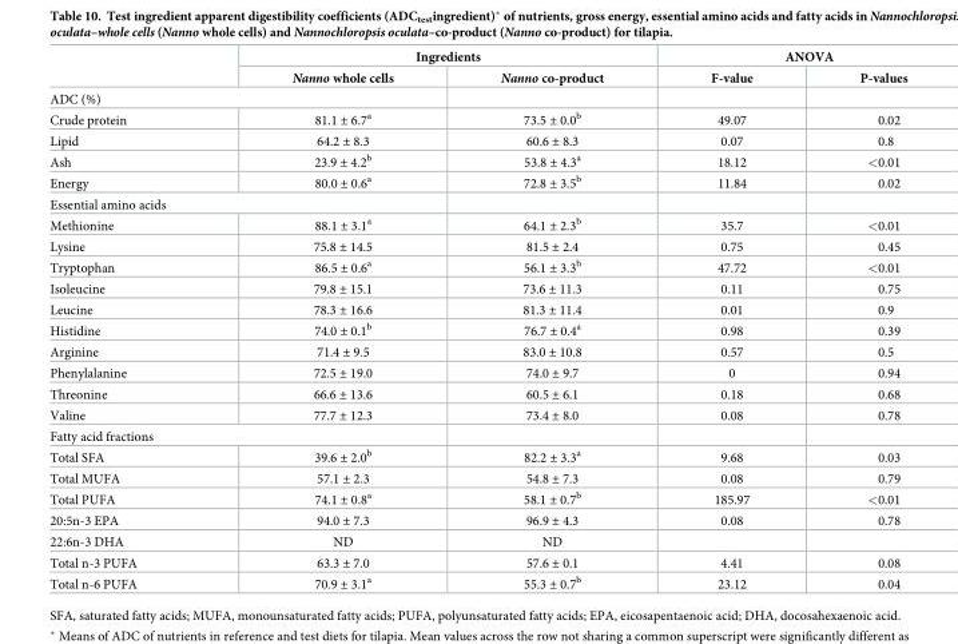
<table><thead><tr><td rowspan="2"></td><td colspan="2">Ingredients</td><td colspan="2">ANOVA</td></tr><tr><td>Nanno whole cells</td><td>Nanno co-product</td><td>F-value</td><td>P-values</td></tr></thead><tbody><tr><td colspan="5">ADC (%)</td></tr><tr><td>Crude protein</td><td>81.1 ± 6.7<sup>a</sup></td><td>73.5 ± 0.0<sup>b</sup></td><td>49.07</td><td>0.02</td></tr><tr><td>Lipid</td><td>64.2 ± 8.3</td><td>60.6 ± 8.3</td><td>0.07</td><td>0.8</td></tr><tr><td>Ash</td><td>23.9 ± 4.2<sup>b</sup></td><td>53.8 ± 4.3<sup>a</sup></td><td>18.12</td><td>&lt;0.01</td></tr><tr><td>Energy</td><td>80.0 ± 0.6<sup>a</sup></td><td>72.8 ± 3.5<sup>b</sup></td><td>11.84</td><td>0.02</td></tr><tr><td colspan="5">Essential amino acids</td></tr><tr><td>Methionine</td><td>88.1 ± 3.1<sup>a</sup></td><td>64.1 ± 2.3<sup>b</sup></td><td>35.7</td><td>&lt;0.01</td></tr><tr><td>Lysine</td><td>75.8 ± 14.5</td><td>81.5 ± 2.4</td><td>0.75</td><td>0.45</td></tr><tr><td>Tryptophan</td><td>86.5 ± 0.6<sup>a</sup></td><td>56.1 ± 3.3<sup>b</sup></td><td>47.72</td><td>&lt;0.01</td></tr><tr><td>Isoleucine</td><td>79.8 ± 15.1</td><td>73.6 ± 11.3</td><td>0.11</td><td>0.75</td></tr><tr><td>Leucine</td><td>78.3 ± 16.6</td><td>81.3 ± 11.4</td><td>0.01</td><td>0.9</td></tr><tr><td>Histidine</td><td>74.0 ± 0.1<sup>b</sup></td><td>76.7 ± 0.4<sup>a</sup></td><td>0.98</td><td>0.39</td></tr><tr><td>Arginine</td><td>71.4 ± 9.5</td><td>83.0 ± 10.8</td><td>0.57</td><td>0.5</td></tr><tr><td>Phenylalanine</td><td>72.5 ± 19.0</td><td>74.0 ± 9.7</td><td>0</td><td>0.94</td></tr><tr><td>Threonine</td><td>66.6 ± 13.6</td><td>60.5 ± 6.1</td><td>0.18</td><td>0.68</td></tr><tr><td>Valine</td><td>77.7 ± 12.3</td><td>73.4 ± 8.0</td><td>0.08</td><td>0.78</td></tr><tr><td colspan="5">Fatty acid fractions</td></tr><tr><td>Total SFA</td><td>39.6 ± 2.0<sup>b</sup></td><td>82.2 ± 3.3<sup>a</sup></td><td>9.68</td><td>0.03</td></tr><tr><td>Total MUFA</td><td>57.1 ± 2.3</td><td>54.8 ± 7.3</td><td>0.08</td><td>0.79</td></tr><tr><td>Total PUFA</td><td>74.1 ± 0.8<sup>a</sup></td><td>58.1 ± 0.7<sup>b</sup></td><td>185.97</td><td>&lt;0.01</td></tr><tr><td>20:5n-3 EPA</td><td>94.0 ± 7.3</td><td>96.9 ± 4.3</td><td>0.08</td><td>0.78</td></tr><tr><td>22:6n-3 DHA</td><td>ND</td><td>ND</td><td></td><td></td></tr><tr><td>Total n-3 PUFA</td><td>63.3 ± 7.0</td><td>57.6 ± 0.1</td><td>4.41</td><td>0.08</td></tr><tr><td>Total n-6 PUFA</td><td>70.9 ± 3.1<sup>a</sup></td><td>55.3 ± 0.7<sup>b</sup></td><td>23.12</td><td>0.04</td></tr></tbody></table>